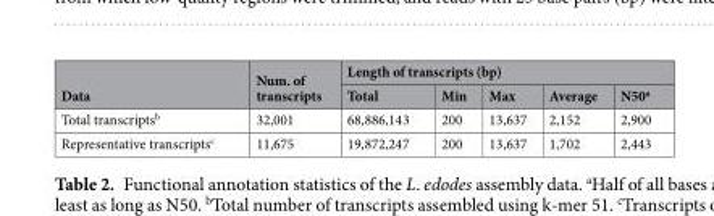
<table><thead><tr><td rowspan="2">Data</td><td rowspan="2">Num. of transcripts</td><td colspan="5">Length of transcripts (bp)</td></tr><tr><td>Total</td><td>Min</td><td>Max</td><td>Average</td><td>N50<sup>a</sup></td></tr></thead><tbody><tr><td>Total transcripts<sup>b</sup></td><td>32,001</td><td>68,886,143</td><td>200</td><td>13,637</td><td>2,152</td><td>2,900</td></tr><tr><td>Representative transcripts<sup>c</sup></td><td>11,675</td><td>19,872,247</td><td>200</td><td>13,637</td><td>1,702</td><td>2,443</td></tr></tbody></table>